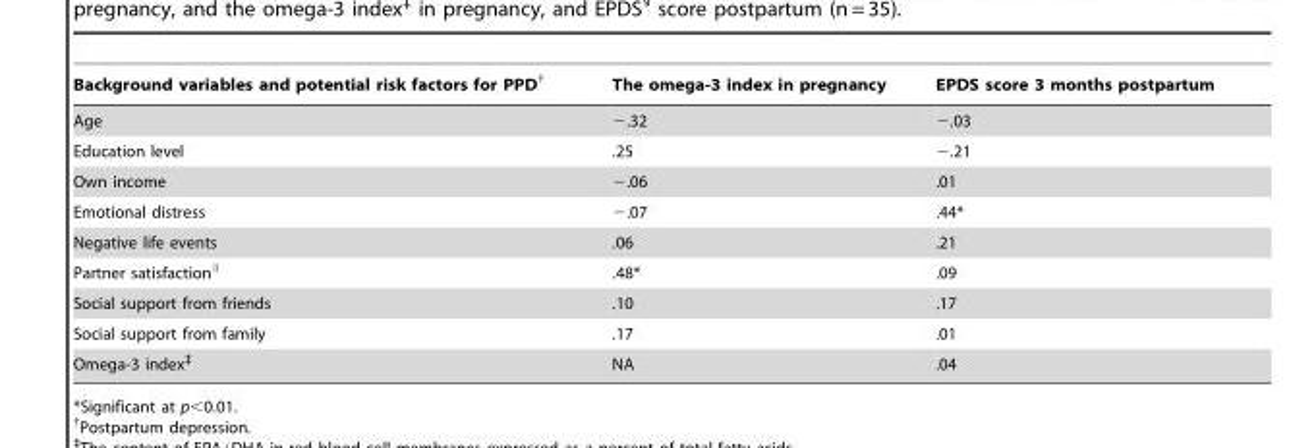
<table><thead><tr><td>Background variables and potential risk factors for PPD†</td><td>The omega-3 index in pregnancy</td><td>EPDS score 3 months postpartum</td></tr></thead><tbody><tr><td>Age</td><td>−.32</td><td>−.03</td></tr><tr><td>Education level</td><td>.25</td><td>−.21</td></tr><tr><td>Own income</td><td>−.06</td><td>.01</td></tr><tr><td>Emotional distress</td><td>−.07</td><td>.44*</td></tr><tr><td>Negative life events</td><td>.06</td><td>.21</td></tr><tr><td>Partner satisfaction∥</td><td>.48*</td><td>.09</td></tr><tr><td>Social support from friends</td><td>.10</td><td>.17</td></tr><tr><td>Social support from family</td><td>.17</td><td>.01</td></tr><tr><td>Omega-3 index‡</td><td>NA</td><td>.04</td></tr></tbody></table>